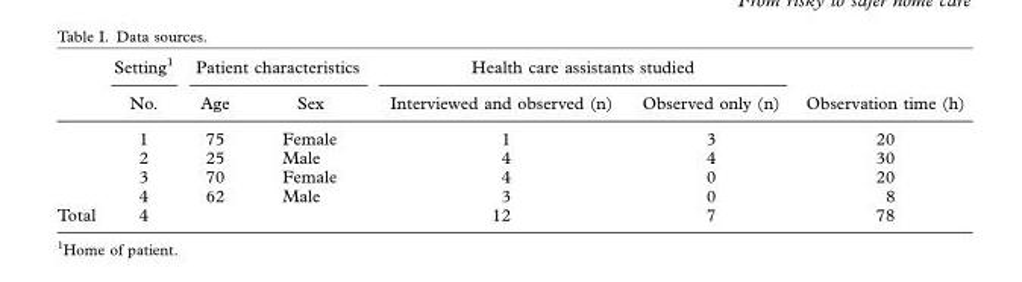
<table><thead><tr><td rowspan="2"></td><td rowspan="2">Setting<sup>1</sup> No.</td><td colspan="2">Patient characteristics</td><td colspan="2">Health care assistants studied</td><td rowspan="2">Observation time (h)</td></tr><tr><td>Age</td><td>Sex</td><td>Interviewed and observed (n)</td><td>Observed only (n)</td></tr></thead><tbody><tr><td></td><td>1</td><td>75</td><td>Female</td><td>1</td><td>3</td><td>20</td></tr><tr><td></td><td>2</td><td>25</td><td>Male</td><td>4</td><td>4</td><td>30</td></tr><tr><td></td><td>3</td><td>70</td><td>Female</td><td>4</td><td>0</td><td>20</td></tr><tr><td></td><td>4</td><td>62</td><td>Male</td><td>3</td><td>0</td><td>8</td></tr><tr><td>Total</td><td>4</td><td></td><td></td><td>12</td><td>7</td><td>78</td></tr></tbody></table>